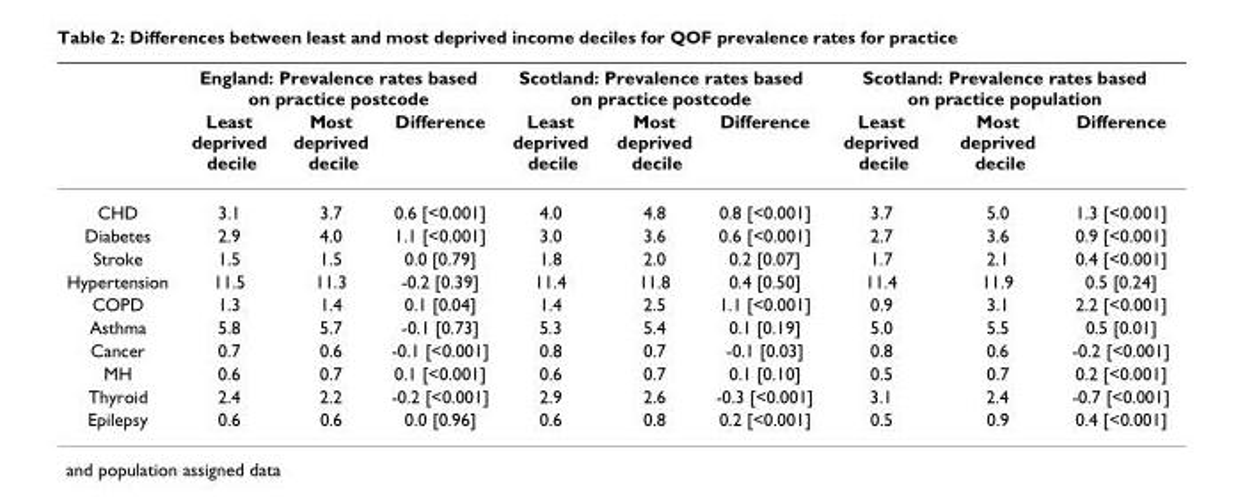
<table><thead><tr><td rowspan="2"></td><td colspan="3">England: Prevalence rates based on practice postcode</td><td colspan="3">Scotland: Prevalence rates based on practice postcode</td><td colspan="3">Scotland: Prevalence rates based on practice population</td></tr><tr><td>Least deprived decile</td><td>Most deprived decile</td><td>Difference</td><td>Least deprived decile</td><td>Most deprived decile</td><td>Difference</td><td>Least deprived decile</td><td>Most deprived decile</td><td>Difference</td></tr></thead><tbody><tr><td>CHD</td><td>3.1</td><td>3.7</td><td>0.6 [&lt;0.001]</td><td>4.0</td><td>4.8</td><td>0.8 [&lt;0.001]</td><td>3.7</td><td>5.0</td><td>1.3 [&lt;0.001]</td></tr><tr><td>Diabetes</td><td>2.9</td><td>4.0</td><td>1.1 [&lt;0.001]</td><td>3.0</td><td>3.6</td><td>0.6 [&lt;0.001]</td><td>2.7</td><td>3.6</td><td>0.9 [&lt;0.001]</td></tr><tr><td>Stroke</td><td>1.5</td><td>1.5</td><td>0.0 [0.79]</td><td>1.8</td><td>2.0</td><td>0.2 [0.07]</td><td>1.7</td><td>2.1</td><td>0.4 [&lt;0.001]</td></tr><tr><td>Hypertension</td><td>11.5</td><td>11.3</td><td>-0.2 [0.39]</td><td>11.4</td><td>11.8</td><td>0.4 [0.50]</td><td>11.4</td><td>11.9</td><td>0.5 [0.24]</td></tr><tr><td>COPD</td><td>1.3</td><td>1.4</td><td>0.1 [0.04]</td><td>1.4</td><td>2.5</td><td>1.1 [&lt;0.001]</td><td>0.9</td><td>3.1</td><td>2.2 [&lt;0.001]</td></tr><tr><td>Asthma</td><td>5.8</td><td>5.7</td><td>-0.1 [0.73]</td><td>5.3</td><td>5.4</td><td>0.1 [0.19]</td><td>5.0</td><td>5.5</td><td>0.5 [0.01]</td></tr><tr><td>Cancer</td><td>0.7</td><td>0.6</td><td>-0.1 [&lt;0.001]</td><td>0.8</td><td>0.7</td><td>-0.1 [0.03]</td><td>0.8</td><td>0.6</td><td>-0.2 [&lt;0.001]</td></tr><tr><td>MH</td><td>0.6</td><td>0.7</td><td>0.1 [&lt;0.001]</td><td>0.6</td><td>0.7</td><td>0.1 [0.10]</td><td>0.5</td><td>0.7</td><td>0.2 [&lt;0.001]</td></tr><tr><td>Thyroid</td><td>2.4</td><td>2.2</td><td>-0.2 [&lt;0.001]</td><td>2.9</td><td>2.6</td><td>-0.3 [&lt;0.001]</td><td>3.1</td><td>2.4</td><td>-0.7 [&lt;0.001]</td></tr><tr><td>Epilepsy</td><td>0.6</td><td>0.6</td><td>0.0 [0.96]</td><td>0.6</td><td>0.8</td><td>0.2 [&lt;0.001]</td><td>0.5</td><td>0.9</td><td>0.4 [&lt;0.001]</td></tr></tbody></table>